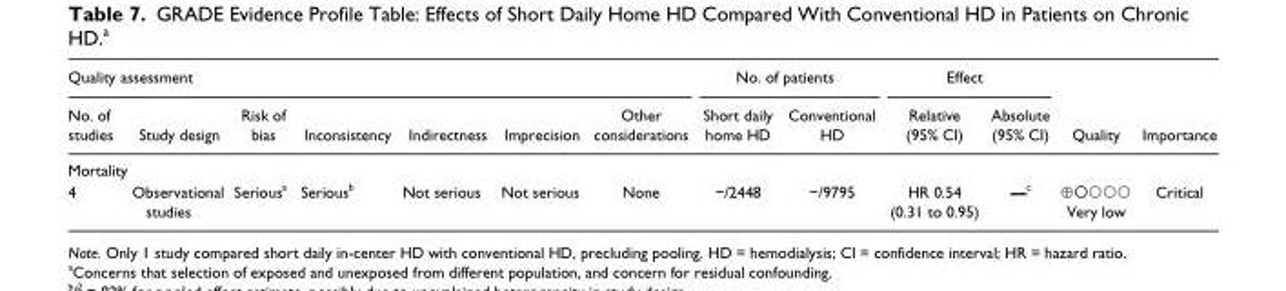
<table><thead><tr><td colspan="7">Quality assessment</td><td colspan="2">No. of patients</td><td colspan="2">Effect</td><td rowspan="2">Quality</td><td rowspan="2">Importance</td></tr><tr><td>No. of studies</td><td>Study design</td><td>Risk of bias</td><td>Inconsistency</td><td>Indirectness</td><td>Imprecision</td><td>Other considerations</td><td>Short daily home HD</td><td>Conventional HD</td><td>Relative (95% CI)</td><td>Absolute (95% CI)</td></tr></thead><tbody><tr><td colspan="13">Mortality</td></tr><tr><td>4</td><td>Observational studies</td><td>Serious<sup>a</sup></td><td>Serious<sup>b</sup></td><td>Not serious</td><td>Not serious</td><td>None</td><td>−/2448</td><td>−/9795</td><td>HR 0.54 (0.31 to 0.95)</td><td>—<sup>c</sup></td><td>⊕⚪⚪⚪⚪ Very low</td><td>Critical</td></tr></tbody></table>